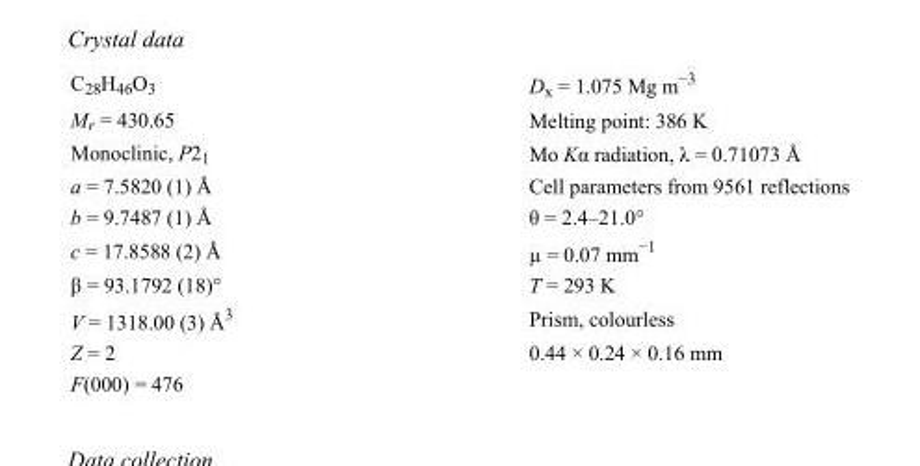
<table><tbody><tr><td>C<sub>28</sub>H<sub>46</sub>O<sub>3</sub></td><td>D<sub>x</sub> = 1.075 Mg m<sup>−3</sup></td></tr><tr><td>M<sub>r</sub> = 430.65</td><td>Melting point: 386 K</td></tr><tr><td>Monoclinic, P2<sub>1</sub></td><td>Mo Kα radiation, λ = 0.71073 Å</td></tr><tr><td>a = 7.5820 (1) Å</td><td>Cell parameters from 9561 reflections</td></tr><tr><td>b = 9.7487 (1) Å</td><td>θ = 2.4–21.0°</td></tr><tr><td>c = 17.8588 (2) Å</td><td>µ = 0.07 mm<sup>−1</sup></td></tr><tr><td>β = 93.1792 (18)°</td><td>T = 293 K</td></tr><tr><td>V = 1318.00 (3) Å<sup>3</sup></td><td>Prism, colourless</td></tr><tr><td>Z = 2</td><td>0.44 × 0.24 × 0.16 mm</td></tr><tr><td>F(000) = 476</td><td></td></tr></tbody></table>